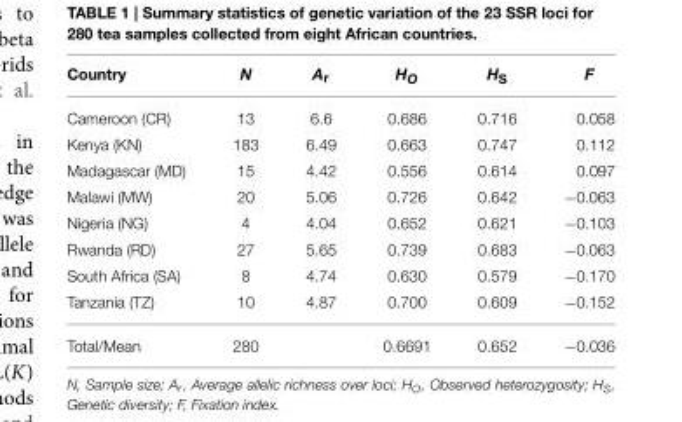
<table><thead><tr><td>Country</td><td>N</td><td>A<sub>r</sub></td><td>H<sub>O</sub></td><td>H<sub>S</sub></td><td>F</td></tr></thead><tbody><tr><td>Cameroon (CR)</td><td>13</td><td>6.6</td><td>0.686</td><td>0.716</td><td>0.058</td></tr><tr><td>Kenya (KN)</td><td>183</td><td>6.49</td><td>0.663</td><td>0.747</td><td>0.112</td></tr><tr><td>Madagascar (MD)</td><td>15</td><td>4.42</td><td>0.556</td><td>0.614</td><td>0.097</td></tr><tr><td>Malawi (MW)</td><td>20</td><td>5.06</td><td>0.726</td><td>0.642</td><td>−0.063</td></tr><tr><td>Nigeria (NG)</td><td>4</td><td>4.04</td><td>0.652</td><td>0.621</td><td>−0.103</td></tr><tr><td>Rwanda (RD)</td><td>27</td><td>5.65</td><td>0.739</td><td>0.683</td><td>−0.063</td></tr><tr><td>South Africa (SA)</td><td>8</td><td>4.74</td><td>0.630</td><td>0.579</td><td>−0.170</td></tr><tr><td>Tanzania (TZ)</td><td>10</td><td>4.87</td><td>0.700</td><td>0.609</td><td>−0.152</td></tr><tr><td>Total/Mean</td><td>280</td><td></td><td>0.6691</td><td>0.652</td><td>−0.036</td></tr></tbody></table>